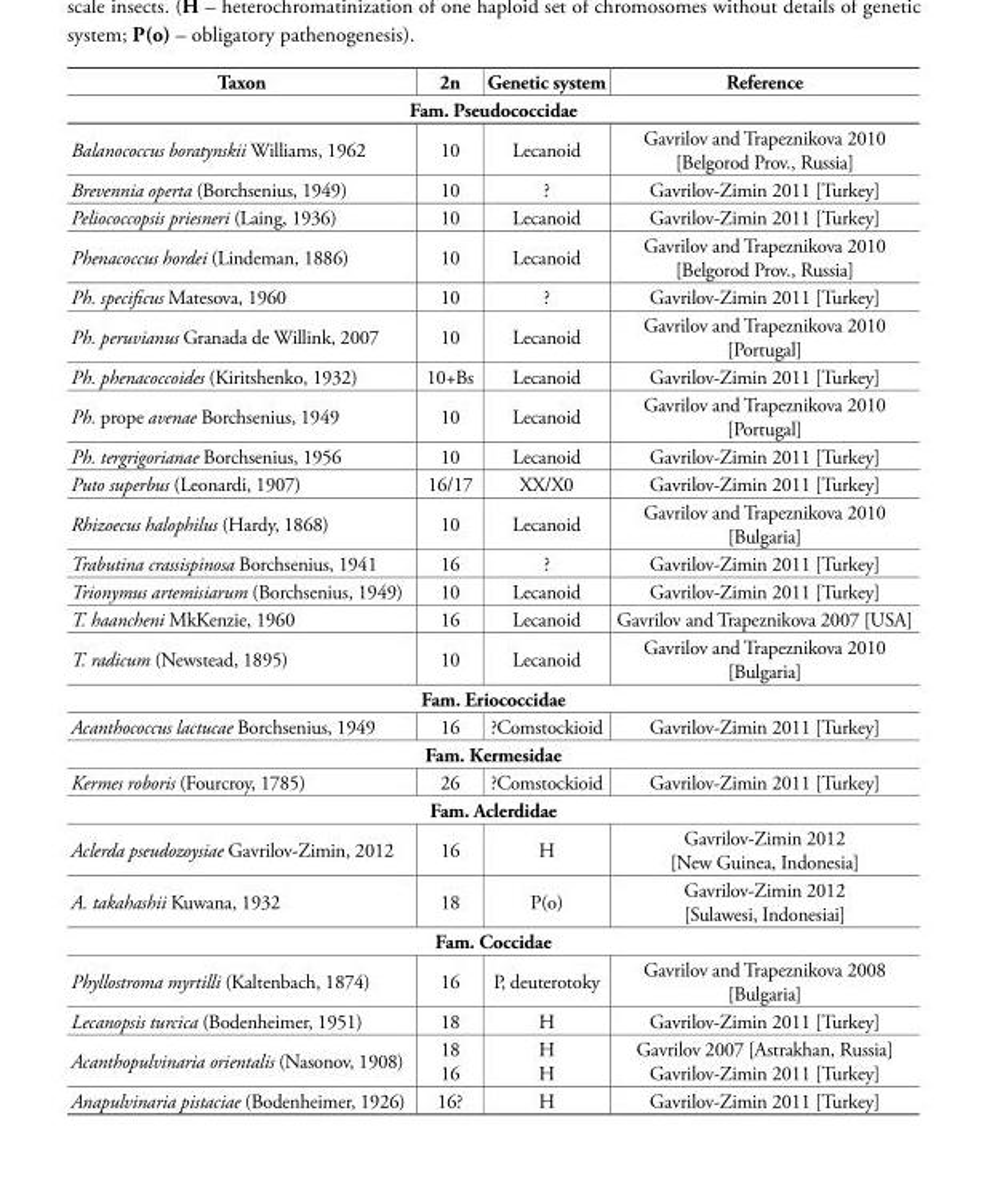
<table><thead><tr><td>Taxon</td><td>2n</td><td>Genetic system</td><td>Reference</td></tr><tr><td colspan="4">Fam. Pseudococcidae</td></tr></thead><tbody><tr><td>Balanococcus boratynskii Williams, 1962</td><td>10</td><td>Lecanoid</td><td>Gavrilov and Trapeznikova 2010 [Belgorod Prov., Russia]</td></tr><tr><td>Brevennia operta (Borchsenius, 1949)</td><td>10</td><td>?</td><td>Gavrilov-Zimin 2011 [Turkey]</td></tr><tr><td>Peliococcopsis priesneri (Laing, 1936)</td><td>10</td><td>Lecanoid</td><td>Gavrilov-Zimin 2011 [Turkey]</td></tr><tr><td>Phenacoccus hordei (Lindeman, 1886)</td><td>10</td><td>Lecanoid</td><td>Gavrilov and Trapeznikova 2010 [Belgorod Prov., Russia]</td></tr><tr><td>Ph. specificus Matesova, 1960</td><td>10</td><td>?</td><td>Gavrilov-Zimin 2011 [Turkey]</td></tr><tr><td>Ph. peruvianus Granada de Willink, 2007</td><td>10</td><td>Lecanoid</td><td>Gavrilov and Trapeznikova 2010 [Portugal]</td></tr><tr><td>Ph. phenacoccoides (Kiritshenko, 1932)</td><td>10+Bs</td><td>Lecanoid</td><td>Gavrilov-Zimin 2011 [Turkey]</td></tr><tr><td>Ph. prope avenae Borchsenius, 1949</td><td>10</td><td>Lecanoid</td><td>Gavrilov and Trapeznikova 2010 [Portugal]</td></tr><tr><td>Ph. tergrigorianae Borchsenius, 1956</td><td>10</td><td>Lecanoid</td><td>Gavrilov-Zimin 2011 [Turkey]</td></tr><tr><td>Puto superbus (Leonardi, 1907)</td><td>16/17</td><td>XX/X0</td><td>Gavrilov-Zimin 2011 [Turkey]</td></tr><tr><td>Rhizoecus halophilus (Hardy, 1868)</td><td>10</td><td>Lecanoid</td><td>Gavrilov and Trapeznikova 2010 [Bulgaria]</td></tr><tr><td>Trabutina crassispinosa Borchsenius, 1941</td><td>16</td><td>?</td><td>Gavrilov-Zimin 2011 [Turkey]</td></tr><tr><td>Trionymus artemisiarum (Borchsenius, 1949)</td><td>10</td><td>Lecanoid</td><td>Gavrilov-Zimin 2011 [Turkey]</td></tr><tr><td>T. haancheni MkKenzie, 1960</td><td>16</td><td>Lecanoid</td><td>Gavrilov and Trapeznikova 2007 [USA]</td></tr><tr><td>T. radicum (Newstead, 1895)</td><td>10</td><td>Lecanoid</td><td>Gavrilov and Trapeznikova 2010 [Bulgaria]</td></tr><tr><td colspan="4">Fam. Eriococcidae</td></tr><tr><td>Acanthococcus lactucae Borchsenius, 1949</td><td>16</td><td>?Comstockioid</td><td>Gavrilov-Zimin 2011 [Turkey]</td></tr><tr><td colspan="4">Fam. Kermesidae</td></tr><tr><td>Kermes roboris (Fourcroy, 1785)</td><td>26</td><td>?Comstockioid</td><td>Gavrilov-Zimin 2011 [Turkey]</td></tr><tr><td colspan="4">Fam. Aclerdidae</td></tr><tr><td>Aclerda pseudozoysiae Gavrilov-Zimin, 2012</td><td>16</td><td>H</td><td>Gavrilov-Zimin 2012 [New Guinea, Indonesia]</td></tr><tr><td>A. takahashii Kuwana, 1932</td><td>18</td><td>P(o)</td><td>Gavrilov-Zimin 2012 [Sulawesi, Indonesiai]</td></tr><tr><td colspan="4">Fam. Coccidae</td></tr><tr><td>Phyllostroma myrtilli (Kaltenbach, 1874)</td><td>16</td><td>P, deuterotoky</td><td>Gavrilov and Trapeznikova 2008 [Bulgaria]</td></tr><tr><td>Lecanopsis turcica (Bodenheimer, 1951)</td><td>18</td><td>H</td><td>Gavrilov-Zimin 2011 [Turkey]</td></tr><tr><td>Acanthopulvinaria orientalis (Nasonov, 1908)</td><td>18 16</td><td>H H</td><td>Gavrilov 2007 [Astrakhan, Russia] Gavrilov-Zimin 2011 [Turkey]</td></tr><tr><td>Anapulvinaria pistaciae (Bodenheimer, 1926)</td><td>16?</td><td>H</td><td>Gavrilov-Zimin 2011 [Turkey]</td></tr></tbody></table>